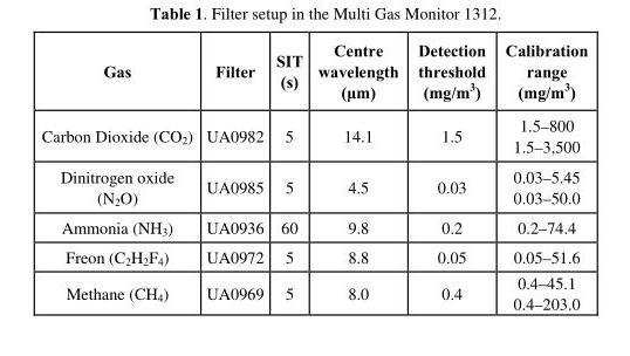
<table><thead><tr><td>Gas</td><td>Filter</td><td>SIT (s)</td><td>Centre wavelength (μm)</td><td>Detection threshold (mg/m<sup>3</sup>)</td><td>Calibration range (mg/m<sup>3</sup>)</td></tr></thead><tbody><tr><td>Carbon Dioxide (CO<sub>2</sub>)</td><td>UA0982</td><td>5</td><td>14.1</td><td>1.5</td><td>1.5–800 1.5–3,500</td></tr><tr><td>Dinitrogen oxide (N<sub>2</sub>O)</td><td>UA0985</td><td>5</td><td>4.5</td><td>0.03</td><td>0.03–5.45 0.03–50.0</td></tr><tr><td>Ammonia (NH<sub>3</sub>)</td><td>UA0936</td><td>60</td><td>9.8</td><td>0.2</td><td>0.2–74.4</td></tr><tr><td>Freon (C<sub>2</sub>H<sub>2</sub>F<sub>4</sub>)</td><td>UA0972</td><td>5</td><td>8.8</td><td>0.05</td><td>0.05–51.6</td></tr><tr><td>Methane (CH<sub>4</sub>)</td><td>UA0969</td><td>5</td><td>8.0</td><td>0.4</td><td>0.4–45.1 0.4–203.0</td></tr></tbody></table>